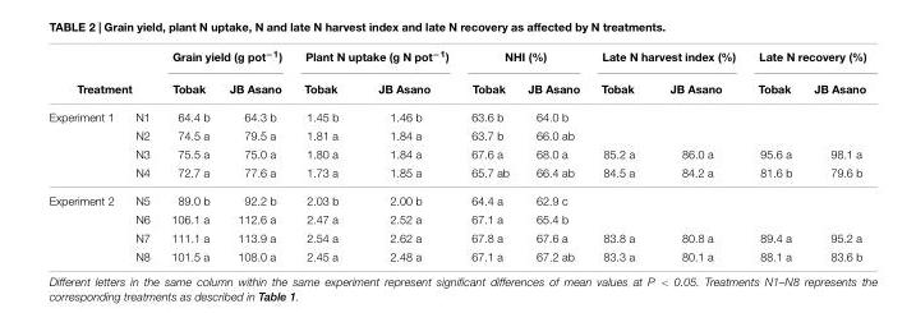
<table><thead><tr><td></td><td></td><td colspan="2">Grain yield (g pot<sup>−1</sup>)</td><td colspan="2">Plant N uptake (g N pot<sup>−1</sup>)</td><td colspan="2">NHI (%)</td><td colspan="2">Late N harvest index (%)</td><td colspan="2">Late N recovery (%)</td></tr><tr><td colspan="2">Treatment</td><td>Tobak</td><td>JB Asano</td><td>Tobak</td><td>JB Asano</td><td>Tobak</td><td>JB Asano</td><td>Tobak</td><td>JB Asano</td><td>Tobak</td><td>JB Asano</td></tr></thead><tbody><tr><td rowspan="4">Experiment 1</td><td>N1</td><td>64.4 b</td><td>64.3 b</td><td>1.45 b</td><td>1.46 b</td><td>63.6 b</td><td>64.0 b</td><td></td><td></td><td></td><td></td></tr><tr><td>N2</td><td>74.5 a</td><td>79.5 a</td><td>1.81 a</td><td>1.84 a</td><td>63.7 b</td><td>66.0 ab</td><td></td><td></td><td></td><td></td></tr><tr><td>N3</td><td>75.5 a</td><td>75.0 a</td><td>1.80 a</td><td>1.84 a</td><td>67.6 a</td><td>68.0 a</td><td>85.2 a</td><td>86.0 a</td><td>95.6 a</td><td>98.1 a</td></tr><tr><td>N4</td><td>72.7 a</td><td>77.6 a</td><td>1.73 a</td><td>1.85 a</td><td>65.7 ab</td><td>66.4 ab</td><td>84.5 a</td><td>84.2 a</td><td>81.6 b</td><td>79.6 b</td></tr><tr><td rowspan="4">Experiment 2</td><td>N5</td><td>89.0 b</td><td>92.2 b</td><td>2.03 b</td><td>2.00 b</td><td>64.4 a</td><td>62.9 c</td><td></td><td></td><td></td><td></td></tr><tr><td>N6</td><td>106.1 a</td><td>112.6 a</td><td>2.47 a</td><td>2.52 a</td><td>67.1 a</td><td>65.4 b</td><td></td><td></td><td></td><td></td></tr><tr><td>N7</td><td>111.1 a</td><td>113.9 a</td><td>2.54 a</td><td>2.62 a</td><td>67.8 a</td><td>67.6 a</td><td>83.8 a</td><td>80.8 a</td><td>89.4 a</td><td>95.2 a</td></tr><tr><td>N8</td><td>101.5 a</td><td>108.0 a</td><td>2.45 a</td><td>2.48 a</td><td>67.1 a</td><td>67.2 ab</td><td>83.3 a</td><td>80.1 a</td><td>88.1 a</td><td>83.6 b</td></tr></tbody></table>